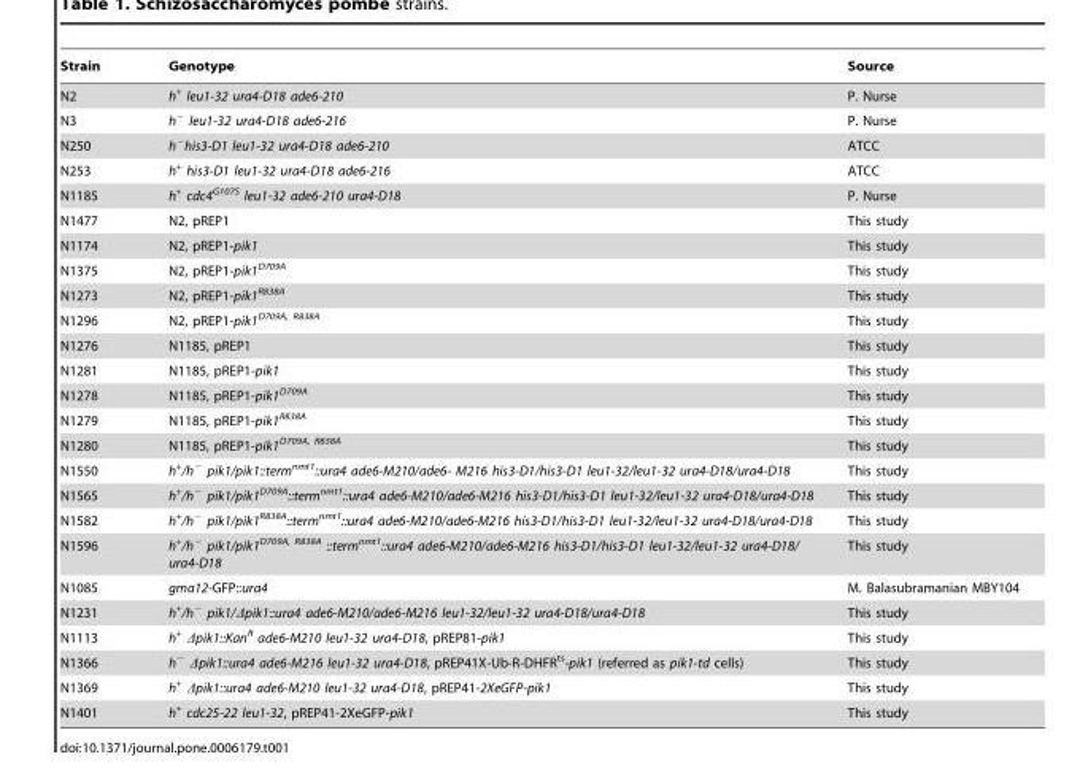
<table><thead><tr><td>Strain</td><td>Genotype</td><td>Source</td></tr></thead><tbody><tr><td>N2</td><td>h<sup>+</sup> leu1-32 ura4-D18 ade6-210</td><td>P. Nurse</td></tr><tr><td>N3</td><td>h<sup>−</sup> leu1-32 ura4-D18 ade6-216</td><td>P. Nurse</td></tr><tr><td>N250</td><td>h<sup>−</sup>his3-D1 leu1-32 ura4-D18 ade6-210</td><td>ATCC</td></tr><tr><td>N253</td><td>h<sup>+</sup> his3-D1 leu1-32 ura4-D18 ade6-216</td><td>ATCC</td></tr><tr><td>N1185</td><td>h<sup>+</sup> cdc4<sup>G107S</sup> leu1-32 ade6-210 ura4-D18</td><td>P. Nurse</td></tr><tr><td>N1477</td><td>N2, pREP1</td><td>This study</td></tr><tr><td>N1174</td><td>N2, pREP1-pik1</td><td>This study</td></tr><tr><td>N1375</td><td>N2, pREP1-pik1<sup>D709A</sup></td><td>This study</td></tr><tr><td>N1273</td><td>N2, pREP1-pik1<sup>R838A</sup></td><td>This study</td></tr><tr><td>N1296</td><td>N2, pREP1-pik1<sup>D709A, R838A</sup></td><td>This study</td></tr><tr><td>N1276</td><td>N1185, pREP1</td><td>This study</td></tr><tr><td>N1281</td><td>N1185, pREP1-pik1</td><td>This study</td></tr><tr><td>N1278</td><td>N1185, pREP1-pik1<sup>D709A</sup></td><td>This study</td></tr><tr><td>N1279</td><td>N1185, pREP1-pik1<sup>R838A</sup></td><td>This study</td></tr><tr><td>N1280</td><td>N1185, pREP1-pik1<sup>D709A, R838A</sup></td><td>This study</td></tr><tr><td>N1550</td><td>h<sup>+</sup>/h<sup>−</sup> pik1/pik1::term<sup>nmt1</sup>::ura4 ade6-M210/ade6- M216 his3-D1/his3-D1 leu1-32/leu1-32 ura4-D18/ura4-D18</td><td>This study</td></tr><tr><td>N1565</td><td>h<sup>+</sup>/h<sup>−</sup> pik1/pik1<sup>D709A</sup>::term<sup>nmt1</sup>::ura4 ade6-M210/ade6-M216 his3-D1/his3-D1 leu1-32/leu1-32 ura4-D18/ura4-D18</td><td>This study</td></tr><tr><td>N1582</td><td>h<sup>+</sup>/h<sup>−</sup> pik1/pik1<sup>R838A</sup>::term<sup>nmt1</sup>::ura4 ade6-M210/ade6-M216 his3-D1/his3-D1 leu1-32/leu1-32 ura4-D18/ura4-D18</td><td>This study</td></tr><tr><td>N1596</td><td>h<sup>+</sup>/h<sup>−</sup> pik1/pik1<sup>D709A, R838A</sup> ::term<sup>nmt1</sup>::ura4 ade6-M210/ade6-M216 his3-D1/his3-D1 leu1-32/leu1-32 ura4-D18/ ura4-D18</td><td>This study</td></tr><tr><td>N1085</td><td>gma12-GFP::ura4</td><td>M. Balasubramanian MBY104</td></tr><tr><td>N1231</td><td>h<sup>+</sup>/h<sup>−</sup> pik1/Δpik1::ura4 ade6-M210/ade6-M216 leu1-32/leu1-32 ura4-D18/ura4-D18</td><td>This study</td></tr><tr><td>N1113</td><td>h<sup>+</sup> Δpik1::Kan<sup>R</sup> ade6-M210 leu1-32 ura4-D18, pREP81-pik1</td><td>This study</td></tr><tr><td>N1366</td><td>h<sup>−</sup> Δpik1::ura4 ade6-M216 leu1-32 ura4-D18, pREP41X-Ub-R-DHFR<sup>ts</sup>-pik1 (referred as pik1-td cells)</td><td>This study</td></tr><tr><td>N1369</td><td>h<sup>+</sup> Δpik1::ura4 ade6-M210 leu1-32 ura4-D18, pREP41-2XeGFP-pik1</td><td>This study</td></tr><tr><td>N1401</td><td>h<sup>+</sup> cdc25-22 leu1-32, pREP41-2XeGFP-pik1</td><td>This study</td></tr></tbody></table>